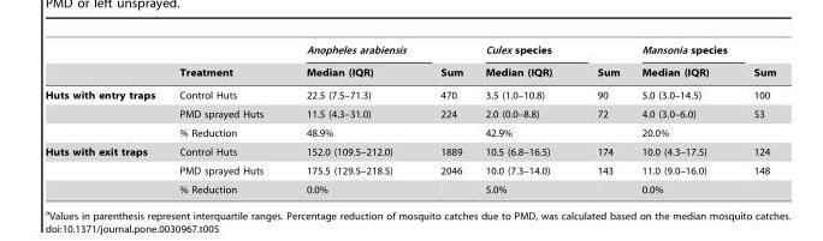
<table><thead><tr><td rowspan="2"></td><td rowspan="2">Treatment</td><td rowspan="2">Anopheles arabiensis Median (IQR)</td><td rowspan="2">Sum</td><td rowspan="2">Culex species Median (IQR)</td><td rowspan="2">Sum</td><td rowspan="2">Mansonia species Median (IQR)</td><td rowspan="2">Sum</td></tr><tr></tr></thead><tbody><tr><td rowspan="3">Huts with entry traps</td><td>Control Huts</td><td>22.5 (7.5–71.3)</td><td>470</td><td>3.5 (1.0–10.8)</td><td>90</td><td>5.0 (3.0–14.5)</td><td>100</td></tr><tr><td>PMD sprayed Huts</td><td>11.5 (4.3–31.0)</td><td>224</td><td>2.0 (0.0–8.8)</td><td>72</td><td>4.0 (3.0–6.0)</td><td>53</td></tr><tr><td>% Reduction</td><td>48.9%</td><td></td><td>42.9%</td><td></td><td>20.0%</td><td></td></tr><tr><td rowspan="3">Huts with exit traps</td><td>Control Huts</td><td>152.0 (109.5–212.0)</td><td>1889</td><td>10.5 (6.8–16.5)</td><td>174</td><td>10.0 (4.3–17.5)</td><td>124</td></tr><tr><td>PMD sprayed Huts</td><td>175.5 (129.5–218.5)</td><td>2046</td><td>10.0 (7.3–14.0)</td><td>143</td><td>11.0 (9.0–16.0)</td><td>148</td></tr><tr><td>% Reduction</td><td>0.0%</td><td></td><td>5.0%</td><td></td><td>0.0%</td><td></td></tr></tbody></table>